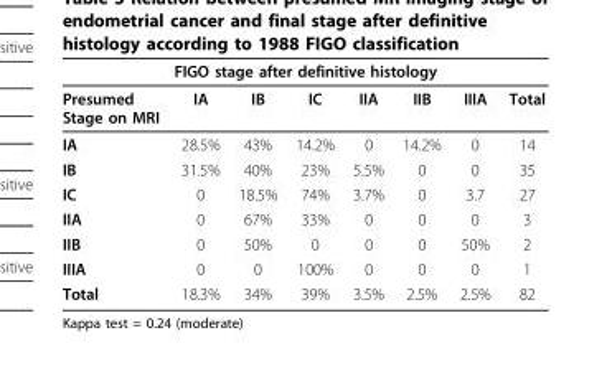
<table><thead><tr><td colspan="8">FIGO stage after definitive histology</td></tr><tr><td>Presumed Stage on MRI</td><td>IA</td><td>IB</td><td>IC</td><td>IIA</td><td>IIB</td><td>IIIA</td><td>Total</td></tr></thead><tbody><tr><td>IA</td><td>28.5%</td><td>43%</td><td>14.2%</td><td>0</td><td>14.2%</td><td>0</td><td>14</td></tr><tr><td>IB</td><td>31.5%</td><td>40%</td><td>23%</td><td>5.5%</td><td>0</td><td>0</td><td>35</td></tr><tr><td>IC</td><td>0</td><td>18.5%</td><td>74%</td><td>3.7%</td><td>0</td><td>3.7</td><td>27</td></tr><tr><td>IIA</td><td>0</td><td>67%</td><td>33%</td><td>0</td><td>0</td><td>0</td><td>3</td></tr><tr><td>IIB</td><td>0</td><td>50%</td><td>0</td><td>0</td><td>0</td><td>50%</td><td>2</td></tr><tr><td>IIIA</td><td>0</td><td>0</td><td>100%</td><td>0</td><td>0</td><td>0</td><td>1</td></tr><tr><td>Total</td><td>18.3%</td><td>34%</td><td>39%</td><td>3.5%</td><td>2.5%</td><td>2.5%</td><td>82</td></tr></tbody></table>